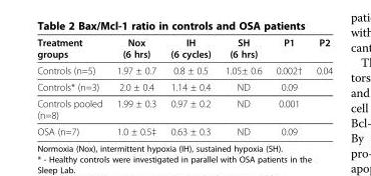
<table><thead><tr><td>Treatment groups</td><td>Nox (6 hrs)</td><td>IH (6 cycles)</td><td>SH (6 hrs)</td><td>P1</td><td>P2</td></tr></thead><tbody><tr><td>Controls (n=5)</td><td>1.97 ± 0.7</td><td>0.8 ± 0.5</td><td>1.05± 0.6</td><td>0.002†</td><td>0.04</td></tr><tr><td>Controls* (n=3)</td><td>2.0 ± 0.4</td><td>1.14 ± 0.4</td><td>ND</td><td>0.09</td><td></td></tr><tr><td>Controls pooled (n=8)</td><td>1.99 ± 0.3</td><td>0.97 ± 0.2</td><td>ND</td><td>0.001</td><td></td></tr><tr><td>OSA (n=7)</td><td>1.0 ± 0.5‡</td><td>0.63 ± 0.3</td><td>ND</td><td>0.09</td><td></td></tr></tbody></table>